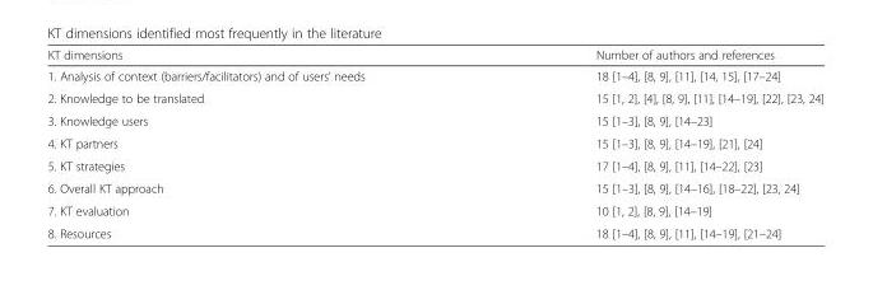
<table><thead><tr><td>KT dimensions</td><td>Number of authors and references</td></tr></thead><tbody><tr><td>1. Analysis of context (barriers/facilitators) and of users’ needs</td><td>18 [1–4], [8, 9], [11], [14, 15], [17–24]</td></tr><tr><td>2. Knowledge to be translated</td><td>15 [1, 2], [4], [8, 9], [11], [14–19], [22], [23, 24]</td></tr><tr><td>3. Knowledge users</td><td>15 [1–3], [8, 9], [14–23]</td></tr><tr><td>4. KT partners</td><td>15 [1–3], [8, 9], [14–19], [21], [24]</td></tr><tr><td>5. KT strategies</td><td>17 [1–4], [8, 9], [11], [14–22], [23]</td></tr><tr><td>6. Overall KT approach</td><td>15 [1–3], [8, 9], [14–16], [18–22], [23, 24]</td></tr><tr><td>7. KT evaluation</td><td>10 [1, 2], [8, 9], [14–19]</td></tr><tr><td>8. Resources</td><td>18 [1–4], [8, 9], [11], [14–19], [21–24]</td></tr></tbody></table>